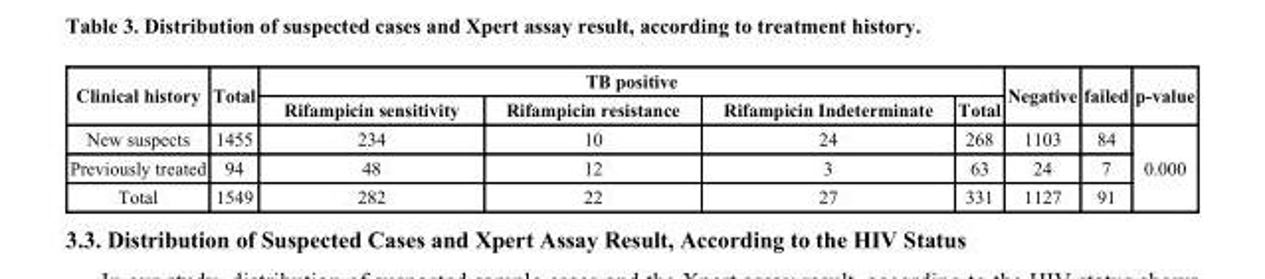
<table><thead><tr><td rowspan="2">Clinical history</td><td rowspan="2">Total</td><td colspan="4">TB positive</td><td rowspan="2">Negative</td><td rowspan="2">failed</td><td rowspan="2">p-value</td></tr><tr><td>Rifampicin sensitivity</td><td>Rifampicin resistance</td><td>Rifampicin Indeterminate</td><td>Total</td></tr></thead><tbody><tr><td>New suspects</td><td>1455</td><td>234</td><td>10</td><td>24</td><td>268</td><td>1103</td><td>84</td><td rowspan="3">0.000</td></tr><tr><td>Previously treated</td><td>94</td><td>48</td><td>12</td><td>3</td><td>63</td><td>24</td><td>7</td></tr><tr><td>Total</td><td>1549</td><td>282</td><td>22</td><td>27</td><td>331</td><td>1127</td><td>91</td></tr></tbody></table>